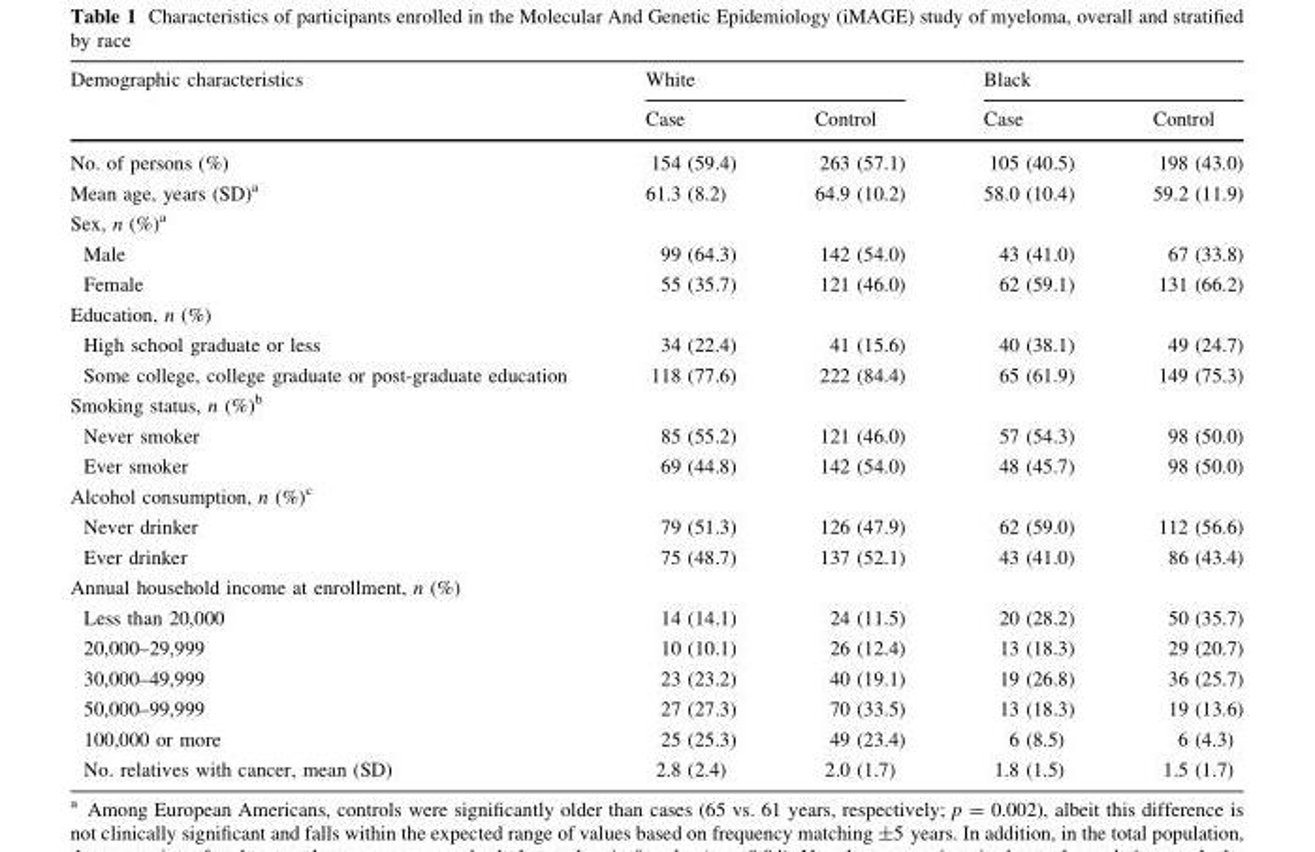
<table><thead><tr><td rowspan="2">Demographic characteristics</td><td colspan="2">White</td><td colspan="2">Black</td></tr><tr><td>Case</td><td>Control</td><td>Case</td><td>Control</td></tr></thead><tbody><tr><td>No. of persons (%)</td><td>154 (59.4)</td><td>263 (57.1)</td><td>105 (40.5)</td><td>198 (43.0)</td></tr><tr><td>Mean age, years (SD)<sup>a</sup></td><td>61.3 (8.2)</td><td>64.9 (10.2)</td><td>58.0 (10.4)</td><td>59.2 (11.9)</td></tr><tr><td colspan="5">Sex, n (%)<sup>a</sup></td></tr><tr><td>Male</td><td>99 (64.3)</td><td>142 (54.0)</td><td>43 (41.0)</td><td>67 (33.8)</td></tr><tr><td>Female</td><td>55 (35.7)</td><td>121 (46.0)</td><td>62 (59.1)</td><td>131 (66.2)</td></tr><tr><td colspan="5">Education, n (%)</td></tr><tr><td>High school graduate or less</td><td>34 (22.4)</td><td>41 (15.6)</td><td>40 (38.1)</td><td>49 (24.7)</td></tr><tr><td>Some college, college graduate or post-graduate education</td><td>118 (77.6)</td><td>222 (84.4)</td><td>65 (61.9)</td><td>149 (75.3)</td></tr><tr><td colspan="5">Smoking status, n (%)<sup>b</sup></td></tr><tr><td>Never smoker</td><td>85 (55.2)</td><td>121 (46.0)</td><td>57 (54.3)</td><td>98 (50.0)</td></tr><tr><td>Ever smoker</td><td>69 (44.8)</td><td>142 (54.0)</td><td>48 (45.7)</td><td>98 (50.0)</td></tr><tr><td colspan="5">Alcohol consumption, n (%)<sup>c</sup></td></tr><tr><td>Never drinker</td><td>79 (51.3)</td><td>126 (47.9)</td><td>62 (59.0)</td><td>112 (56.6)</td></tr><tr><td>Ever drinker</td><td>75 (48.7)</td><td>137 (52.1)</td><td>43 (41.0)</td><td>86 (43.4)</td></tr><tr><td colspan="5">Annual household income at enrollment, n (%)</td></tr><tr><td>Less than 20,000</td><td>14 (14.1)</td><td>24 (11.5)</td><td>20 (28.2)</td><td>50 (35.7)</td></tr><tr><td>20,000–29,999</td><td>10 (10.1)</td><td>26 (12.4)</td><td>13 (18.3)</td><td>29 (20.7)</td></tr><tr><td>30,000–49,999</td><td>23 (23.2)</td><td>40 (19.1)</td><td>19 (26.8)</td><td>36 (25.7)</td></tr><tr><td>50,000–99,999</td><td>27 (27.3)</td><td>70 (33.5)</td><td>13 (18.3)</td><td>19 (13.6)</td></tr><tr><td>100,000 or more</td><td>25 (25.3)</td><td>49 (23.4)</td><td>6 (8.5)</td><td>6 (4.3)</td></tr><tr><td>No. relatives with cancer, mean (SD)</td><td>2.8 (2.4)</td><td>2.0 (1.7)</td><td>1.8 (1.5)</td><td>1.5 (1.7)</td></tr></tbody></table>